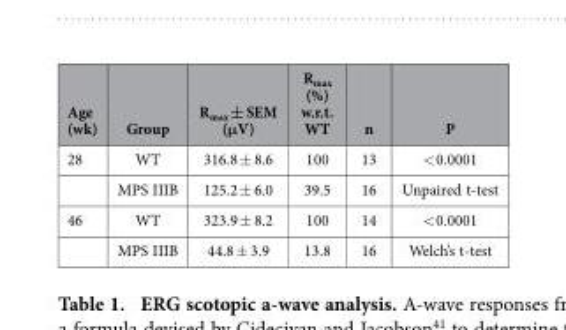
<table><thead><tr><td>Age (wk)</td><td>Group</td><td>R<sub>max</sub> ± SEM (μV)</td><td>R<sub>max</sub> (%) w.r.t. WT</td><td>n</td><td>P</td></tr></thead><tbody><tr><td rowspan="2">28</td><td>WT</td><td>316.8 ± 8.6</td><td>100</td><td>13</td><td>&lt; 0.0001</td></tr><tr><td>MPS IIIB</td><td>125.2 ± 6.0</td><td>39.5</td><td>16</td><td>Unpaired t-test</td></tr><tr><td rowspan="2">46</td><td>WT</td><td>323.9 ± 8.2</td><td>100</td><td>14</td><td>&lt; 0.0001</td></tr><tr><td>MPS IIIB</td><td>44.8 ± 3.9</td><td>13.8</td><td>16</td><td>Welch’s t-test</td></tr></tbody></table>